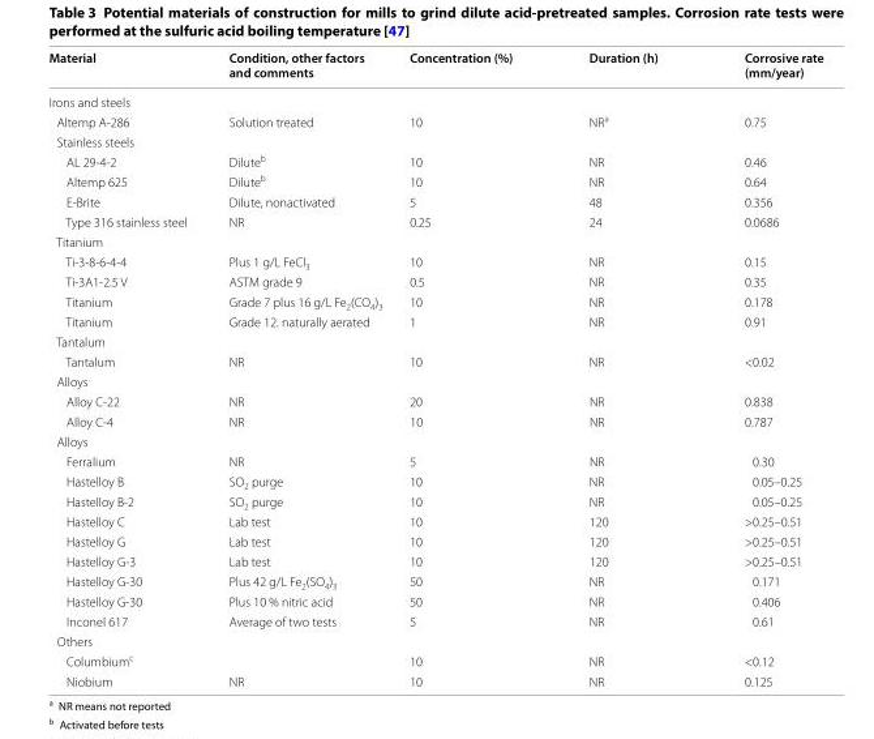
<table><thead><tr><td>Material</td><td>Condition, other factors and comments</td><td>Concentration (%)</td><td>Duration (h)</td><td>Corrosive rate (mm/year)</td></tr></thead><tbody><tr><td colspan="5">Irons and steels</td></tr><tr><td>Altemp A-286</td><td>Solution treated</td><td>10</td><td>NR<sup>a</sup></td><td>0.75</td></tr><tr><td colspan="5">Stainless steels</td></tr><tr><td>AL 29-4-2</td><td>Dilute<sup>b</sup></td><td>10</td><td>NR</td><td>0.46</td></tr><tr><td>Altemp 625</td><td>Dilute<sup>b</sup></td><td>10</td><td>NR</td><td>0.64</td></tr><tr><td>E-Brite</td><td>Dilute, nonactivated</td><td>5</td><td>48</td><td>0.356</td></tr><tr><td>Type 316 stainless steel</td><td>NR</td><td>0.25</td><td>24</td><td>0.0686</td></tr><tr><td colspan="5">Titanium</td></tr><tr><td>Ti-3-8-6-4-4</td><td>Plus 1 g/L FeCl<sub>3</sub></td><td>10</td><td>NR</td><td>0.15</td></tr><tr><td>Ti-3A1-2.5 V</td><td>ASTM grade 9</td><td>0.5</td><td>NR</td><td>0.35</td></tr><tr><td>Titanium</td><td>Grade 7 plus 16 g/L Fe<sub>2</sub>(CO<sub>4</sub>)<sub>3</sub></td><td>10</td><td>NR</td><td>0.178</td></tr><tr><td>Titanium</td><td>Grade 12. naturally aerated</td><td>1</td><td>NR</td><td>0.91</td></tr><tr><td colspan="5">Tantalum</td></tr><tr><td>Tantalum</td><td>NR</td><td>10</td><td>NR</td><td>&lt;0.02</td></tr><tr><td colspan="5">Alloys</td></tr><tr><td>Alloy C-22</td><td>NR</td><td>20</td><td>NR</td><td>0.838</td></tr><tr><td>Alloy C-4</td><td>NR</td><td>10</td><td>NR</td><td>0.787</td></tr><tr><td colspan="5">Alloys</td></tr><tr><td>Ferralium</td><td>NR</td><td>5</td><td>NR</td><td>0.30</td></tr><tr><td>Hastelloy B</td><td>SO<sub>2</sub> purge</td><td>10</td><td>NR</td><td>0.05–0.25</td></tr><tr><td>Hastelloy B-2</td><td>SO<sub>2</sub> purge</td><td>10</td><td>NR</td><td>0.05–0.25</td></tr><tr><td>Hastelloy C</td><td>Lab test</td><td>10</td><td>120</td><td>&gt;0.25–0.51</td></tr><tr><td>Hastelloy G</td><td>Lab test</td><td>10</td><td>120</td><td>&gt;0.25–0.51</td></tr><tr><td>Hastelloy G-3</td><td>Lab test</td><td>10</td><td>120</td><td>&gt;0.25–0.51</td></tr><tr><td>Hastelloy G-30</td><td>Plus 42 g/L Fe<sub>2</sub>(SO<sub>4</sub>)<sub>3</sub></td><td>50</td><td>NR</td><td>0.171</td></tr><tr><td>Hastelloy G-30</td><td>Plus 10 % nitric acid</td><td>50</td><td>NR</td><td>0.406</td></tr><tr><td>Inconel 617</td><td>Average of two tests</td><td>5</td><td>NR</td><td>0.61</td></tr><tr><td colspan="5">Others</td></tr><tr><td>Columbium<sup>c</sup></td><td></td><td>10</td><td>NR</td><td>&lt;0.12</td></tr><tr><td>Niobium</td><td>NR</td><td>10</td><td>NR</td><td>0.125</td></tr></tbody></table>